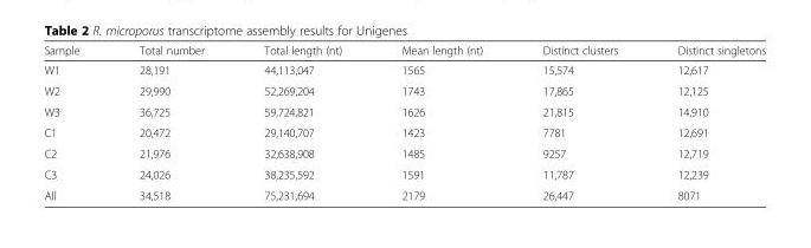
<table><thead><tr><td>Sample</td><td>Total number</td><td>Total length (nt)</td><td>Mean length (nt)</td><td>Distinct clusters</td><td>Distinct singletons</td></tr></thead><tbody><tr><td>W1</td><td>28,191</td><td>44,113,047</td><td>1565</td><td>15,574</td><td>12,617</td></tr><tr><td>W2</td><td>29,990</td><td>52,269,204</td><td>1743</td><td>17,865</td><td>12,125</td></tr><tr><td>W3</td><td>36,725</td><td>59,724,821</td><td>1626</td><td>21,815</td><td>14,910</td></tr><tr><td>C1</td><td>20,472</td><td>29,140,707</td><td>1423</td><td>7781</td><td>12,691</td></tr><tr><td>C2</td><td>21,976</td><td>32,638,908</td><td>1485</td><td>9257</td><td>12,719</td></tr><tr><td>C3</td><td>24,026</td><td>38,235,592</td><td>1591</td><td>11,787</td><td>12,239</td></tr><tr><td>All</td><td>34,518</td><td>75,231,694</td><td>2179</td><td>26,447</td><td>8071</td></tr></tbody></table>